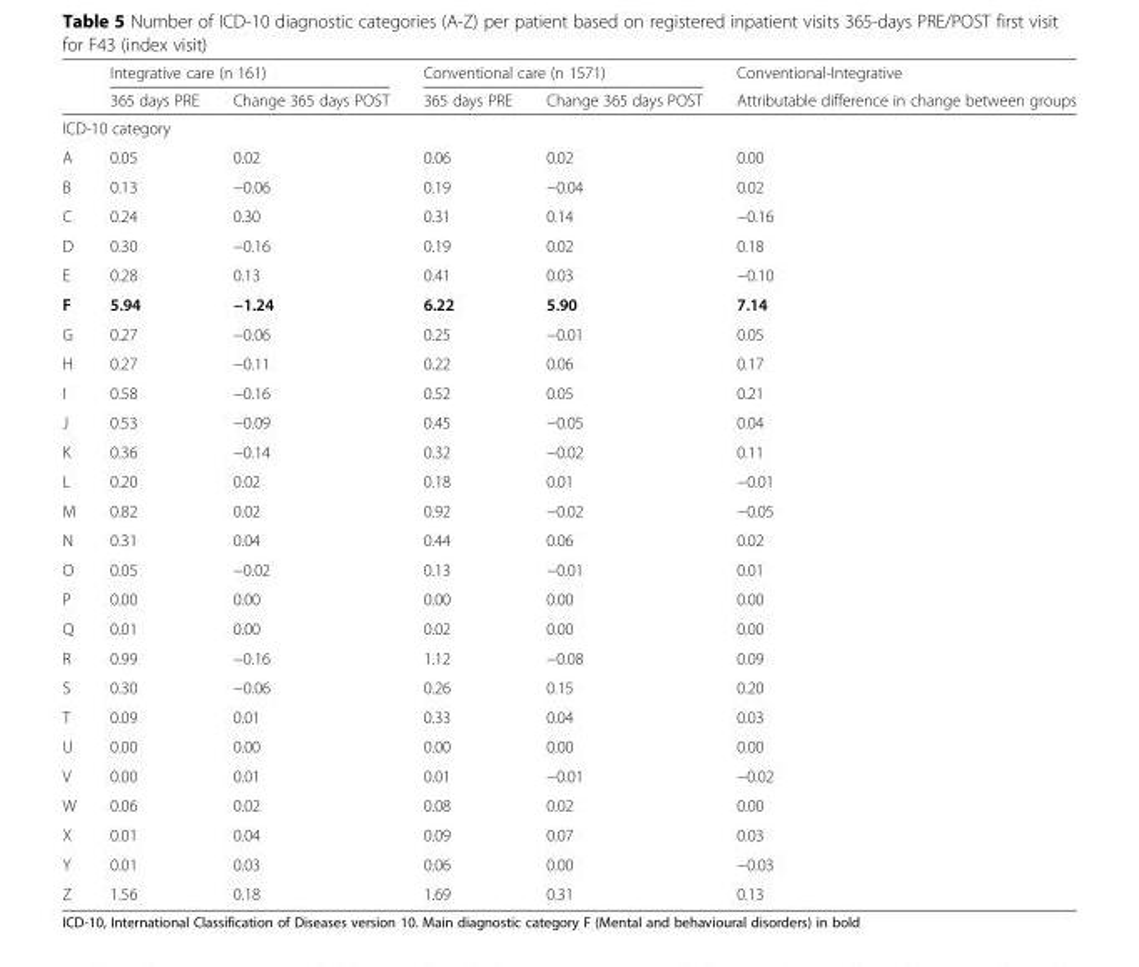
<table><thead><tr><td rowspan="2"></td><td colspan="2">Integrative care (n 161)</td><td colspan="2">Conventional care (n 1571)</td><td rowspan="2">Conventional-Integrative Attributable difference in change between groups</td></tr><tr><td>365 days PRE</td><td>Change 365 days POST</td><td>365 days PRE</td><td>Change 365 days POST</td></tr></thead><tbody><tr><td colspan="6">ICD-10 category</td></tr><tr><td>A</td><td>0.05</td><td>0.02</td><td>0.06</td><td>0.02</td><td>0.00</td></tr><tr><td>B</td><td>0.13</td><td>−0.06</td><td>0.19</td><td>−0.04</td><td>0.02</td></tr><tr><td>C</td><td>0.24</td><td>0.30</td><td>0.31</td><td>0.14</td><td>−0.16</td></tr><tr><td>D</td><td>0.30</td><td>−0.16</td><td>0.19</td><td>0.02</td><td>0.18</td></tr><tr><td>E</td><td>0.28</td><td>0.13</td><td>0.41</td><td>0.03</td><td>−0.10</td></tr><tr><td>F</td><td>5.94</td><td>−1.24</td><td>6.22</td><td>5.90</td><td>7.14</td></tr><tr><td>G</td><td>0.27</td><td>−0.06</td><td>0.25</td><td>−0.01</td><td>0.05</td></tr><tr><td>H</td><td>0.27</td><td>−0.11</td><td>0.22</td><td>0.06</td><td>0.17</td></tr><tr><td>I</td><td>0.58</td><td>−0.16</td><td>0.52</td><td>0.05</td><td>0.21</td></tr><tr><td>J</td><td>0.53</td><td>−0.09</td><td>0.45</td><td>−0.05</td><td>0.04</td></tr><tr><td>K</td><td>0.36</td><td>−0.14</td><td>0.32</td><td>−0.02</td><td>0.11</td></tr><tr><td>L</td><td>0.20</td><td>0.02</td><td>0.18</td><td>0.01</td><td>−0.01</td></tr><tr><td>M</td><td>0.82</td><td>0.02</td><td>0.92</td><td>−0.02</td><td>−0.05</td></tr><tr><td>N</td><td>0.31</td><td>0.04</td><td>0.44</td><td>0.06</td><td>0.02</td></tr><tr><td>O</td><td>0.05</td><td>−0.02</td><td>0.13</td><td>−0.01</td><td>0.01</td></tr><tr><td>P</td><td>0.00</td><td>0.00</td><td>0.00</td><td>0.00</td><td>0.00</td></tr><tr><td>Q</td><td>0.01</td><td>0.00</td><td>0.02</td><td>0.00</td><td>0.00</td></tr><tr><td>R</td><td>0.99</td><td>−0.16</td><td>1.12</td><td>−0.08</td><td>0.09</td></tr><tr><td>S</td><td>0.30</td><td>−0.06</td><td>0.26</td><td>0.15</td><td>0.20</td></tr><tr><td>T</td><td>0.09</td><td>0.01</td><td>0.33</td><td>0.04</td><td>0.03</td></tr><tr><td>U</td><td>0.00</td><td>0.00</td><td>0.00</td><td>0.00</td><td>0.00</td></tr><tr><td>V</td><td>0.00</td><td>0.01</td><td>0.01</td><td>−0.01</td><td>−0.02</td></tr><tr><td>W</td><td>0.06</td><td>0.02</td><td>0.08</td><td>0.02</td><td>0.00</td></tr><tr><td>X</td><td>0.01</td><td>0.04</td><td>0.09</td><td>0.07</td><td>0.03</td></tr><tr><td>Y</td><td>0.01</td><td>0.03</td><td>0.06</td><td>0.00</td><td>−0.03</td></tr><tr><td>Z</td><td>1.56</td><td>0.18</td><td>1.69</td><td>0.31</td><td>0.13</td></tr></tbody></table>